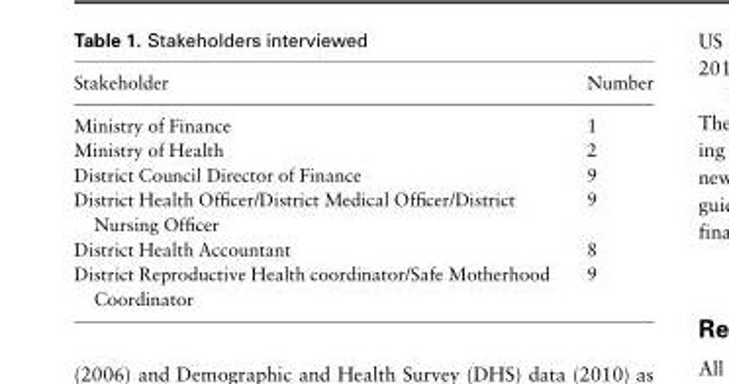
<table><thead><tr><td>Stakeholder</td><td>Number</td></tr></thead><tbody><tr><td>Ministry of Finance</td><td>1</td></tr><tr><td>Ministry of Health</td><td>2</td></tr><tr><td>District Council Director of Finance</td><td>9</td></tr><tr><td>District Health Officer/District Medical Officer/District Nursing Officer</td><td>9</td></tr><tr><td>District Health Accountant</td><td>8</td></tr><tr><td>District Reproductive Health coordinator/Safe Motherhood Coordinator</td><td>9</td></tr></tbody></table>